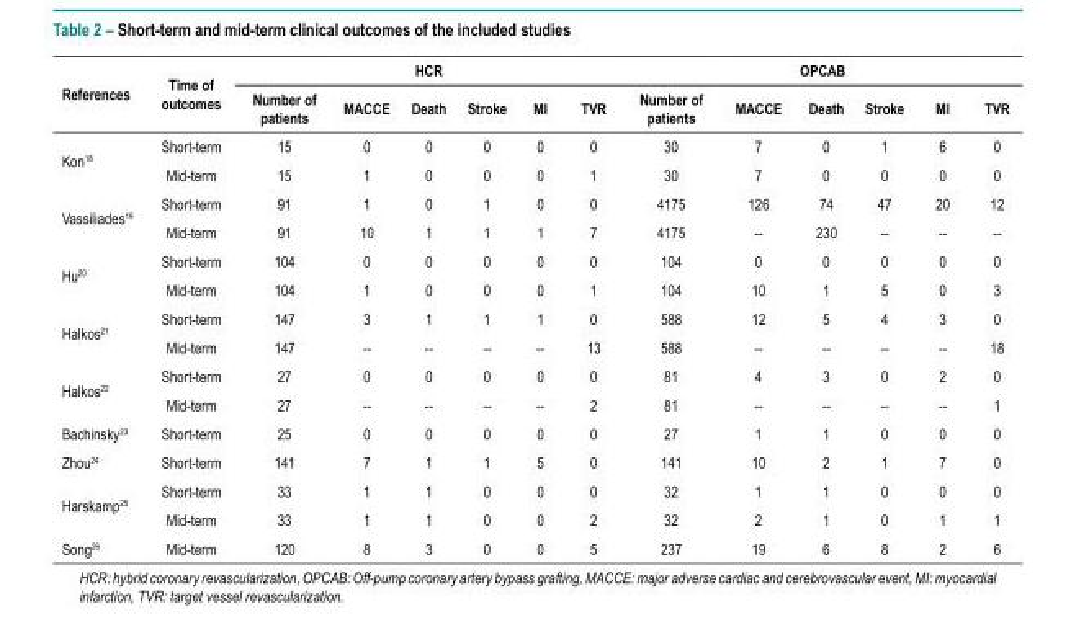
<table><thead><tr><td rowspan="2">References</td><td rowspan="2">Time of outcomes</td><td colspan="6">HCR</td><td colspan="6">OPCAB</td></tr><tr><td>Number of patients</td><td>MACCE</td><td>Death</td><td>Stroke</td><td>MI</td><td>TVR</td><td>Number of patients</td><td>MACCE</td><td>Death</td><td>Stroke</td><td>MI</td><td>TVR</td></tr></thead><tbody><tr><td rowspan="2">Kon<sup>18</sup></td><td>Short-term</td><td>15</td><td>0</td><td>0</td><td>0</td><td>0</td><td>0</td><td>30</td><td>7</td><td>0</td><td>1</td><td>6</td><td>0</td></tr><tr><td>Mid-term</td><td>15</td><td>1</td><td>0</td><td>0</td><td>0</td><td>1</td><td>30</td><td>7</td><td>0</td><td>0</td><td>0</td><td>0</td></tr><tr><td rowspan="2">Vassiliades<sup>19</sup></td><td>Short-term</td><td>91</td><td>1</td><td>0</td><td>1</td><td>0</td><td>0</td><td>4175</td><td>126</td><td>74</td><td>47</td><td>20</td><td>12</td></tr><tr><td>Mid-term</td><td>91</td><td>10</td><td>1</td><td>1</td><td>1</td><td>7</td><td>4175</td><td>--</td><td>230</td><td>--</td><td>--</td><td>--</td></tr><tr><td rowspan="2">Hu<sup>20</sup></td><td>Short-term</td><td>104</td><td>0</td><td>0</td><td>0</td><td>0</td><td>0</td><td>104</td><td>0</td><td>0</td><td>0</td><td>0</td><td>0</td></tr><tr><td>Mid-term</td><td>104</td><td>1</td><td>0</td><td>0</td><td>0</td><td>1</td><td>104</td><td>10</td><td>1</td><td>5</td><td>0</td><td>3</td></tr><tr><td rowspan="2">Halkos<sup>21</sup></td><td>Short-term</td><td>147</td><td>3</td><td>1</td><td>1</td><td>1</td><td>0</td><td>588</td><td>12</td><td>5</td><td>4</td><td>3</td><td>0</td></tr><tr><td>Mid-term</td><td>147</td><td>--</td><td>--</td><td>--</td><td>--</td><td>13</td><td>588</td><td>--</td><td>--</td><td>--</td><td>--</td><td>18</td></tr><tr><td rowspan="2">Halkos<sup>22</sup></td><td>Short-term</td><td>27</td><td>0</td><td>0</td><td>0</td><td>0</td><td>0</td><td>81</td><td>4</td><td>3</td><td>0</td><td>2</td><td>0</td></tr><tr><td>Mid-term</td><td>27</td><td>--</td><td>--</td><td>--</td><td>--</td><td>2</td><td>81</td><td>--</td><td>--</td><td>--</td><td>--</td><td>1</td></tr><tr><td>Bachinsky<sup>23</sup></td><td>Short-term</td><td>25</td><td>0</td><td>0</td><td>0</td><td>0</td><td>0</td><td>27</td><td>1</td><td>1</td><td>0</td><td>0</td><td>0</td></tr><tr><td>Zhou<sup>24</sup></td><td>Short-term</td><td>141</td><td>7</td><td>1</td><td>1</td><td>5</td><td>0</td><td>141</td><td>10</td><td>2</td><td>1</td><td>7</td><td>0</td></tr><tr><td rowspan="2">Harskamp<sup>25</sup></td><td>Short-term</td><td>33</td><td>1</td><td>1</td><td>0</td><td>0</td><td>0</td><td>32</td><td>1</td><td>1</td><td>0</td><td>0</td><td>0</td></tr><tr><td>Mid-term</td><td>33</td><td>1</td><td>1</td><td>0</td><td>0</td><td>2</td><td>32</td><td>2</td><td>1</td><td>0</td><td>1</td><td>1</td></tr><tr><td>Song<sup>26</sup></td><td>Mid-term</td><td>120</td><td>8</td><td>3</td><td>0</td><td>0</td><td>5</td><td>237</td><td>19</td><td>6</td><td>8</td><td>2</td><td>6</td></tr></tbody></table>